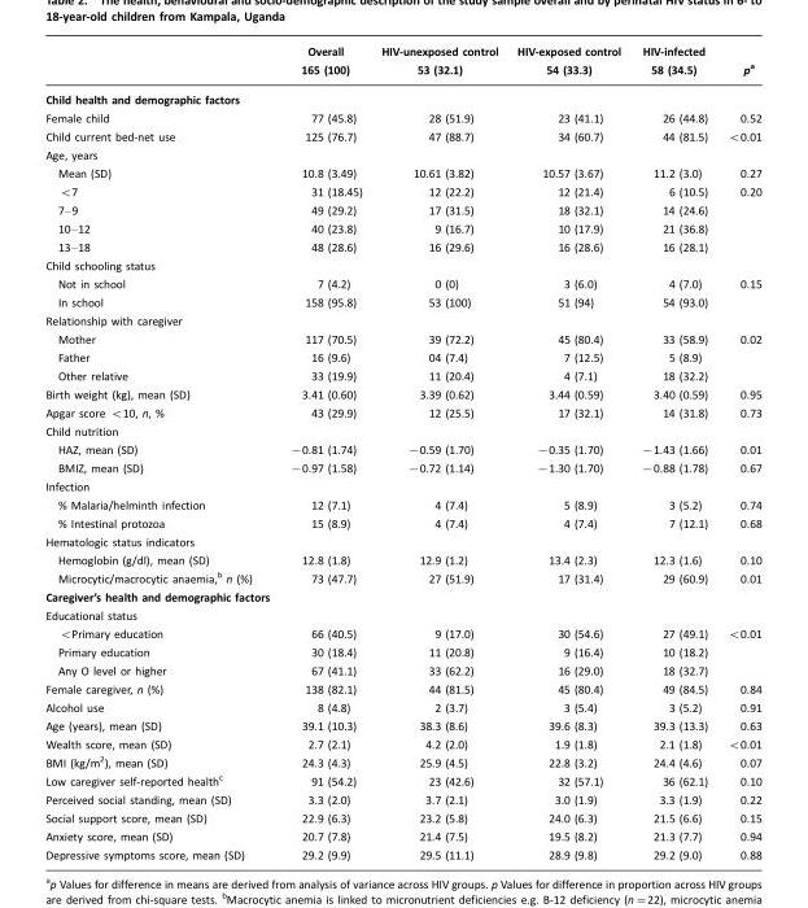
<table><thead><tr><td></td><td>Overall 165 (100)</td><td>HIV-unexposed control 53 (32.1)</td><td>HIV-exposed control 54 (33.3)</td><td>HIV-infected 58 (34.5)</td><td>p<sup>a</sup></td></tr></thead><tbody><tr><td colspan="6">Child health and demographic factors</td></tr><tr><td>Female child</td><td>77 (45.8)</td><td>28 (51.9)</td><td>23 (41.1)</td><td>26 (44.8)</td><td>0.52</td></tr><tr><td>Child current bed-net use</td><td>125 (76.7)</td><td>47 (88.7)</td><td>34 (60.7)</td><td>44 (81.5)</td><td>&lt;0.01</td></tr><tr><td colspan="6">Age, years</td></tr><tr><td>Mean (SD)</td><td>10.8 (3.49)</td><td>10.61 (3.82)</td><td>10.57 (3.67)</td><td>11.2 (3.0)</td><td>0.27</td></tr><tr><td>&lt;7</td><td>31 (18.45)</td><td>12 (22.2)</td><td>12 (21.4)</td><td>6 (10.5)</td><td>0.20</td></tr><tr><td>7–9</td><td>49 (29.2)</td><td>17 (31.5)</td><td>18 (32.1)</td><td>14 (24.6)</td><td></td></tr><tr><td>10–12</td><td>40 (23.8)</td><td>9 (16.7)</td><td>10 (17.9)</td><td>21 (36.8)</td><td></td></tr><tr><td>13–18</td><td>48 (28.6)</td><td>16 (29.6)</td><td>16 (28.6)</td><td>16 (28.1)</td><td></td></tr><tr><td colspan="6">Child schooling status</td></tr><tr><td>Not in school</td><td>7 (4.2)</td><td>0 (0)</td><td>3 (6.0)</td><td>4 (7.0)</td><td>0.15</td></tr><tr><td>In school</td><td>158 (95.8)</td><td>53 (100)</td><td>51 (94)</td><td>54 (93.0)</td><td></td></tr><tr><td colspan="6">Relationship with caregiver</td></tr><tr><td>Mother</td><td>117 (70.5)</td><td>39 (72.2)</td><td>45 (80.4)</td><td>33 (58.9)</td><td>0.02</td></tr><tr><td>Father</td><td>16 (9.6)</td><td>04 (7.4)</td><td>7 (12.5)</td><td>5 (8.9)</td><td></td></tr><tr><td>Other relative</td><td>33 (19.9)</td><td>11 (20.4)</td><td>4 (7.1)</td><td>18 (32.2)</td><td></td></tr><tr><td>Birth weight (kg), mean (SD)</td><td>3.41 (0.60)</td><td>3.39 (0.62)</td><td>3.44 (0.59)</td><td>3.40 (0.59)</td><td>0.95</td></tr><tr><td>Apgar score &lt;10, n, %</td><td>43 (29.9)</td><td>12 (25.5)</td><td>17 (32.1)</td><td>14 (31.8)</td><td>0.73</td></tr><tr><td colspan="6">Child nutrition</td></tr><tr><td>HAZ, mean (SD)</td><td>−0.81 (1.74)</td><td>−0.59 (1.70)</td><td>−0.35 (1.70)</td><td>−1.43 (1.66)</td><td>0.01</td></tr><tr><td>BMIZ, mean (SD)</td><td>−0.97 (1.58)</td><td>−0.72 (1.14)</td><td>−1.30 (1.70)</td><td>−0.88 (1.78)</td><td>0.67</td></tr><tr><td colspan="6">Infection</td></tr><tr><td>% Malaria/helminth infection</td><td>12 (7.1)</td><td>4 (7.4)</td><td>5 (8.9)</td><td>3 (5.2)</td><td>0.74</td></tr><tr><td>% Intestinal protozoa</td><td>15 (8.9)</td><td>4 (7.4)</td><td>4 (7.4)</td><td>7 (12.1)</td><td>0.68</td></tr><tr><td colspan="6">Hematologic status indicators</td></tr><tr><td>Hemoglobin (g/dl), mean (SD)</td><td>12.8 (1.8)</td><td>12.9 (1.2)</td><td>13.4 (2.3)</td><td>12.3 (1.6)</td><td>0.10</td></tr><tr><td>Microcytic/macrocytic anaemia,<sup>b</sup> n (%)</td><td>73 (47.7)</td><td>27 (51.9)</td><td>17 (31.4)</td><td>29 (60.9)</td><td>0.01</td></tr><tr><td colspan="6">Caregiver’s health and demographic factors</td></tr><tr><td colspan="6">Educational status</td></tr><tr><td>&lt;Primary education</td><td>66 (40.5)</td><td>9 (17.0)</td><td>30 (54.6)</td><td>27 (49.1)</td><td>&lt;0.01</td></tr><tr><td>Primary education</td><td>30 (18.4)</td><td>11 (20.8)</td><td>9 (16.4)</td><td>10 (18.2)</td><td></td></tr><tr><td>Any O level or higher</td><td>67 (41.1)</td><td>33 (62.2)</td><td>16 (29.0)</td><td>18 (32.7)</td><td></td></tr><tr><td>Female caregiver, n (%)</td><td>138 (82.1)</td><td>44 (81.5)</td><td>45 (80.4)</td><td>49 (84.5)</td><td>0.84</td></tr><tr><td>Alcohol use</td><td>8 (4.8)</td><td>2 (3.7)</td><td>3 (5.4)</td><td>3 (5.2)</td><td>0.91</td></tr><tr><td>Age (years), mean (SD)</td><td>39.1 (10.3)</td><td>38.3 (8.6)</td><td>39.6 (8.3)</td><td>39.3 (13.3)</td><td>0.63</td></tr><tr><td>Wealth score, mean (SD)</td><td>2.7 (2.1)</td><td>4.2 (2.0)</td><td>1.9 (1.8)</td><td>2.1 (1.8)</td><td>&lt;0.01</td></tr><tr><td>BMI (kg/m<sup>2</sup>), mean (SD)</td><td>24.3 (4.3)</td><td>25.9 (4.5)</td><td>22.8 (3.2)</td><td>24.4 (4.6)</td><td>0.07</td></tr><tr><td>Low caregiver self-reported health<sup>c</sup></td><td>91 (54.2)</td><td>23 (42.6)</td><td>32 (57.1)</td><td>36 (62.1)</td><td>0.10</td></tr><tr><td>Perceived social standing, mean (SD)</td><td>3.3 (2.0)</td><td>3.7 (2.1)</td><td>3.0 (1.9)</td><td>3.3 (1.9)</td><td>0.22</td></tr><tr><td>Social support score, mean (SD)</td><td>22.9 (6.3)</td><td>23.2 (5.8)</td><td>24.0 (6.3)</td><td>21.5 (6.6)</td><td>0.15</td></tr><tr><td>Anxiety score, mean (SD)</td><td>20.7 (7.8)</td><td>21.4 (7.5)</td><td>19.5 (8.2)</td><td>21.3 (7.7)</td><td>0.94</td></tr><tr><td>Depressive symptoms score, mean (SD)</td><td>29.2 (9.9)</td><td>29.5 (11.1)</td><td>28.9 (9.8)</td><td>29.2 (9.0)</td><td>0.88</td></tr></tbody></table>